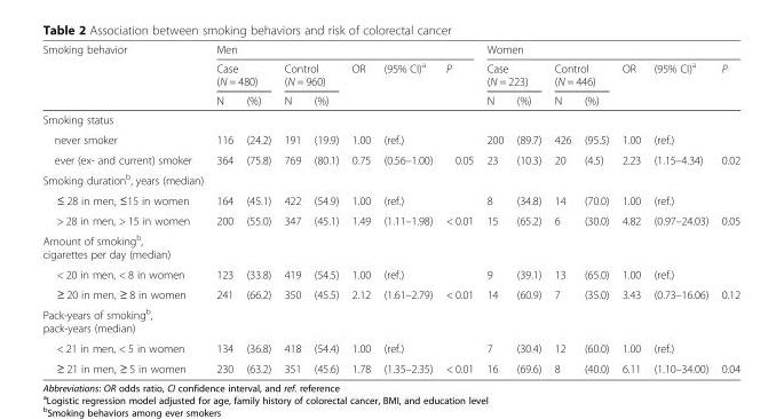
<table><thead><tr><td rowspan="4">Smoking behavior</td><td colspan="7">Men</td><td colspan="7">Women</td></tr><tr><td rowspan="2" colspan="2">Case (N = 480)</td><td rowspan="2" colspan="2">Control (N = 960)</td><td rowspan="3">OR</td><td rowspan="3">(95% CI)<sup>a</sup></td><td rowspan="3">P</td><td rowspan="2" colspan="2">Case (N = 223)</td><td rowspan="2" colspan="2">Control (N = 446)</td><td rowspan="3">OR</td><td rowspan="3">(95% CI)<sup>a</sup></td><td rowspan="3">P</td></tr><tr></tr><tr><td>N</td><td>(%)</td><td>N</td><td>(%)</td><td>N</td><td>(%)</td><td>N</td><td>(%)</td></tr></thead><tbody><tr><td colspan="15">Smoking status</td></tr><tr><td>never smoker</td><td>116</td><td>(24.2)</td><td>191</td><td>(19.9)</td><td>1.00</td><td>(ref.)</td><td></td><td>200</td><td>(89.7)</td><td>426</td><td>(95.5)</td><td>1.00</td><td>(ref.)</td><td></td></tr><tr><td>ever (ex- and current) smoker</td><td>364</td><td>(75.8)</td><td>769</td><td>(80.1)</td><td>0.75</td><td>(0.56–1.00)</td><td>0.05</td><td>23</td><td>(10.3)</td><td>20</td><td>(4.5)</td><td>2.23</td><td>(1.15–4.34)</td><td>0.02</td></tr><tr><td colspan="15">Smoking duration<sup>b</sup>, years (median)</td></tr><tr><td>≤ 28 in men, ≤15 in women</td><td>164</td><td>(45.1)</td><td>422</td><td>(54.9)</td><td>1.00</td><td>(ref.)</td><td></td><td>8</td><td>(34.8)</td><td>14</td><td>(70.0)</td><td>1.00</td><td>(ref.)</td><td></td></tr><tr><td>&gt; 28 in men, &gt; 15 in women</td><td>200</td><td>(55.0)</td><td>347</td><td>(45.1)</td><td>1.49</td><td>(1.11–1.98)</td><td>&lt; 0.01</td><td>15</td><td>(65.2)</td><td>6</td><td>(30.0)</td><td>4.82</td><td>(0.97–24.03)</td><td>0.05</td></tr><tr><td colspan="15">Amount of smoking<sup>b</sup>, cigarettes per day (median)</td></tr><tr><td>&lt; 20 in men, &lt; 8 in women</td><td>123</td><td>(33.8)</td><td>419</td><td>(54.5)</td><td>1.00</td><td>(ref.)</td><td></td><td>9</td><td>(39.1)</td><td>13</td><td>(65.0)</td><td>1.00</td><td>(ref.)</td><td></td></tr><tr><td>≥ 20 in men, ≥ 8 in women</td><td>241</td><td>(66.2)</td><td>350</td><td>(45.5)</td><td>2.12</td><td>(1.61–2.79)</td><td>&lt; 0.01</td><td>14</td><td>(60.9)</td><td>7</td><td>(35.0)</td><td>3.43</td><td>(0.73–16.06)</td><td>0.12</td></tr><tr><td colspan="15">Pack-years of smoking<sup>b</sup>, pack-years (median)</td></tr><tr><td>&lt; 21 in men, &lt; 5 in women</td><td>134</td><td>(36.8)</td><td>418</td><td>(54.4)</td><td>1.00</td><td>(ref.)</td><td></td><td>7</td><td>(30.4)</td><td>12</td><td>(60.0)</td><td>1.00</td><td>(ref.)</td><td></td></tr><tr><td>≥ 21 in men, ≥ 5 in women</td><td>230</td><td>(63.2)</td><td>351</td><td>(45.6)</td><td>1.78</td><td>(1.35–2.35)</td><td>&lt; 0.01</td><td>16</td><td>(69.6)</td><td>8</td><td>(40.0)</td><td>6.11</td><td>(1.10–34.00)</td><td>0.04</td></tr></tbody></table>